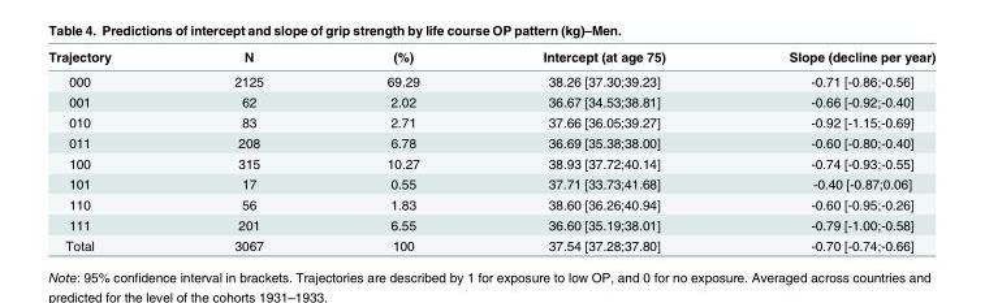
<table><thead><tr><td>Trajectory</td><td>N</td><td>(%)</td><td>Intercept (at age 75)</td><td>Slope (decline per year)</td></tr></thead><tbody><tr><td>000</td><td>2125</td><td>69.29</td><td>38.26 [37.30;39.23]</td><td>-0.71 [-0.86;-0.56]</td></tr><tr><td>001</td><td>62</td><td>2.02</td><td>36.67 [34.53;38.81]</td><td>-0.66 [-0.92;-0.40]</td></tr><tr><td>010</td><td>83</td><td>2.71</td><td>37.66 [36.05;39.27]</td><td>-0.92 [-1.15;-0.69]</td></tr><tr><td>011</td><td>208</td><td>6.78</td><td>36.69 [35.38;38.00]</td><td>-0.60 [-0.80;-0.40]</td></tr><tr><td>100</td><td>315</td><td>10.27</td><td>38.93 [37.72;40.14]</td><td>-0.74 [-0.93;-0.55]</td></tr><tr><td>101</td><td>17</td><td>0.55</td><td>37.71 [33.73;41.68]</td><td>-0.40 [-0.87;0.06]</td></tr><tr><td>110</td><td>56</td><td>1.83</td><td>38.60 [36.26;40.94]</td><td>-0.60 [-0.95;-0.26]</td></tr><tr><td>111</td><td>201</td><td>6.55</td><td>36.60 [35.19;38.01]</td><td>-0.79 [-1.00;-0.58]</td></tr><tr><td>Total</td><td>3067</td><td>100</td><td>37.54 [37.28;37.80]</td><td>-0.70 [-0.74;-0.66]</td></tr></tbody></table>